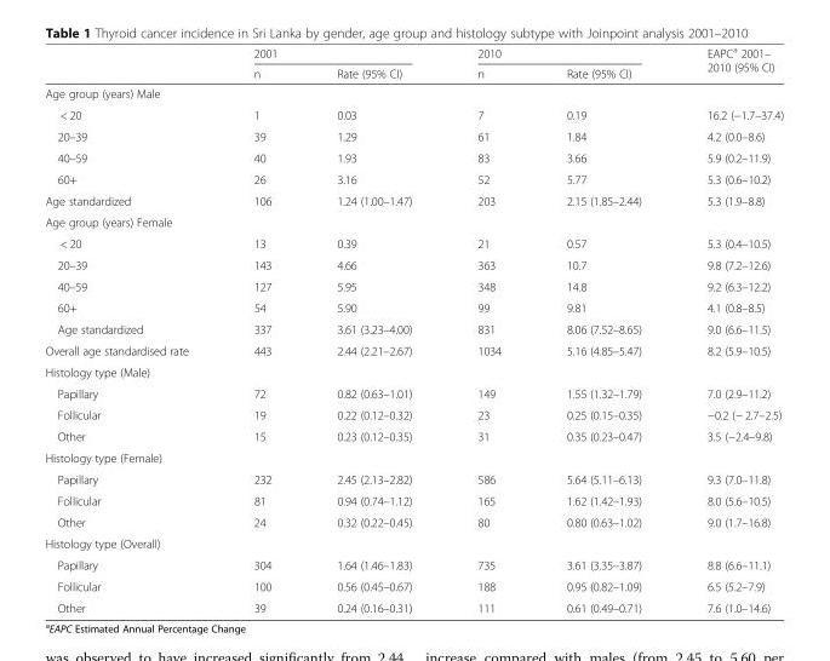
<table><thead><tr><td rowspan="2"></td><td colspan="2">2001</td><td colspan="2">2010</td><td rowspan="2">EAPC<sup>a</sup> 2001– 2010 (95% CI)</td></tr><tr><td>n</td><td>Rate (95% CI)</td><td>n</td><td>Rate (95% CI)</td></tr></thead><tbody><tr><td colspan="6">Age group (years) Male</td></tr><tr><td>&lt; 20</td><td>1</td><td>0.03</td><td>7</td><td>0.19</td><td>16.2 (−1.7–37.4)</td></tr><tr><td>20–39</td><td>39</td><td>1.29</td><td>61</td><td>1.84</td><td>4.2 (0.0–8.6)</td></tr><tr><td>40–59</td><td>40</td><td>1.93</td><td>83</td><td>3.66</td><td>5.9 (0.2–11.9)</td></tr><tr><td>60+</td><td>26</td><td>3.16</td><td>52</td><td>5.77</td><td>5.3 (0.6–10.2)</td></tr><tr><td>Age standardized</td><td>106</td><td>1.24 (1.00–1.47)</td><td>203</td><td>2.15 (1.85–2.44)</td><td>5.3 (1.9–8.8)</td></tr><tr><td colspan="6">Age group (years) Female</td></tr><tr><td>&lt; 20</td><td>13</td><td>0.39</td><td>21</td><td>0.57</td><td>5.3 (0.4–10.5)</td></tr><tr><td>20–39</td><td>143</td><td>4.66</td><td>363</td><td>10.7</td><td>9.8 (7.2–12.6)</td></tr><tr><td>40–59</td><td>127</td><td>5.95</td><td>348</td><td>14.8</td><td>9.2 (6.3–12.2)</td></tr><tr><td>60+</td><td>54</td><td>5.90</td><td>99</td><td>9.81</td><td>4.1 (0.8–8.5)</td></tr><tr><td>Age standardized</td><td>337</td><td>3.61 (3.23–4.00)</td><td>831</td><td>8.06 (7.52–8.65)</td><td>9.0 (6.6–11.5)</td></tr><tr><td>Overall age standardised rate</td><td>443</td><td>2.44 (2.21–2.67)</td><td>1034</td><td>5.16 (4.85–5.47)</td><td>8.2 (5.9–10.5)</td></tr><tr><td colspan="6">Histology type (Male)</td></tr><tr><td>Papillary</td><td>72</td><td>0.82 (0.63–1.01)</td><td>149</td><td>1.55 (1.32–1.79)</td><td>7.0 (2.9–11.2)</td></tr><tr><td>Follicular</td><td>19</td><td>0.22 (0.12–0.32)</td><td>23</td><td>0.25 (0.15–0.35)</td><td>−0.2 (− 2.7–2.5)</td></tr><tr><td>Other</td><td>15</td><td>0.23 (0.12–0.35)</td><td>31</td><td>0.35 (0.23–0.47)</td><td>3.5 (−2.4–9.8)</td></tr><tr><td colspan="6">Histology type (Female)</td></tr><tr><td>Papillary</td><td>232</td><td>2.45 (2.13–2.82)</td><td>586</td><td>5.64 (5.11–6.13)</td><td>9.3 (7.0–11.8)</td></tr><tr><td>Follicular</td><td>81</td><td>0.94 (0.74–1.12)</td><td>165</td><td>1.62 (1.42–1.93)</td><td>8.0 (5.6–10.5)</td></tr><tr><td>Other</td><td>24</td><td>0.32 (0.22–0.45)</td><td>80</td><td>0.80 (0.63–1.02)</td><td>9.0 (1.7–16.8)</td></tr><tr><td colspan="6">Histology type (Overall)</td></tr><tr><td>Papillary</td><td>304</td><td>1.64 (1.46–1.83)</td><td>735</td><td>3.61 (3.35–3.87)</td><td>8.8 (6.6–11.1)</td></tr><tr><td>Follicular</td><td>100</td><td>0.56 (0.45–0.67)</td><td>188</td><td>0.95 (0.82–1.09)</td><td>6.5 (5.2–7.9)</td></tr><tr><td>Other</td><td>39</td><td>0.24 (0.16–0.31)</td><td>111</td><td>0.61 (0.49–0.71)</td><td>7.6 (1.0–14.6)</td></tr></tbody></table>